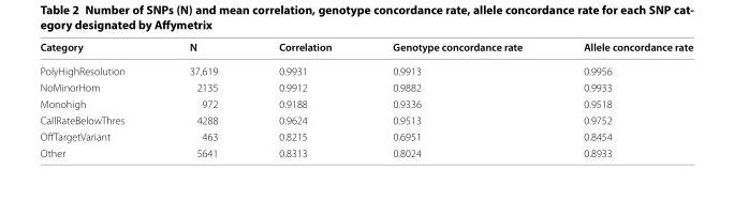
<table><thead><tr><td>Category</td><td>N</td><td>Correlation</td><td>Genotype concordance rate</td><td>Allele concordance rate</td></tr></thead><tbody><tr><td>PolyHighResolution</td><td>37,619</td><td>0.9931</td><td>0.9913</td><td>0.9956</td></tr><tr><td>NoMinorHom</td><td>2135</td><td>0.9912</td><td>0.9882</td><td>0.9933</td></tr><tr><td>Monohigh</td><td>972</td><td>0.9188</td><td>0.9336</td><td>0.9518</td></tr><tr><td>CallRateBelowThres</td><td>4288</td><td>0.9624</td><td>0.9513</td><td>0.9752</td></tr><tr><td>OffTargetVariant</td><td>463</td><td>0.8215</td><td>0.6951</td><td>0.8454</td></tr><tr><td>Other</td><td>5641</td><td>0.8313</td><td>0.8024</td><td>0.8933</td></tr></tbody></table>